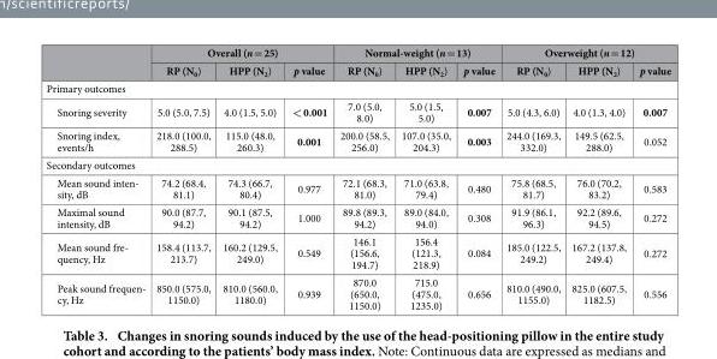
<table><thead><tr><td rowspan="2"></td><td colspan="3">Overall (n = 25)</td><td colspan="3">Normal-weight (n = 13)</td><td colspan="3">Overweight (n = 12)</td></tr><tr><td>RP (N<sub>0</sub>)</td><td>HPP (N<sub>2</sub>)</td><td>p value</td><td>RP (N<sub>0</sub>)</td><td>HPP (N<sub>2</sub>)</td><td>p value</td><td>RP (N<sub>0</sub>)</td><td>HPP (N<sub>2</sub>)</td><td>p value</td></tr></thead><tbody><tr><td colspan="10">Primary outcomes</td></tr><tr><td>Snoring severity</td><td>5.0 (5.0, 7.5)</td><td>4.0 (1.5, 5.0)</td><td>&lt; 0.001</td><td>7.0 (5.0, 8.0)</td><td>5.0 (1.5, 5.0)</td><td>0.007</td><td>5.0 (4.3, 6.0)</td><td>4.0 (1.3, 4.0)</td><td>0.007</td></tr><tr><td>Snoring index, events/h</td><td>218.0 (100.0, 288.5)</td><td>115.0 (48.0, 260.3)</td><td>0.001</td><td>200.0 (58.5, 256.0)</td><td>107.0 (35.0, 204.3)</td><td>0.003</td><td>244.0 (169.3, 332.0)</td><td>149.5 (62.5, 288.0)</td><td>0.052</td></tr><tr><td colspan="10">Secondary outcomes</td></tr><tr><td>Mean sound inten- sity, dB</td><td>74.2 (68.4, 81.1)</td><td>74.3 (66.7, 80.4)</td><td>0.977</td><td>72.1 (68.3, 81.0)</td><td>71.0 (63.8, 79.4)</td><td>0.480</td><td>75.8 (68.5, 81.7)</td><td>76.0 (70.2, 83.2)</td><td>0.583</td></tr><tr><td>Maximal sound intensity, dB</td><td>90.0 (87.7, 94.2)</td><td>90.1 (87.5, 94.2)</td><td>1.000</td><td>89.8 (89.3, 94.2)</td><td>89.0 (84.0, 94.0)</td><td>0.308</td><td>91.9 (86.1, 96.3)</td><td>92.2 (89.6, 94.5)</td><td>0.272</td></tr><tr><td>Mean sound fre- quency, Hz</td><td>158.4 (113.7, 213.7)</td><td>160.2 (129.5, 249.0)</td><td>0.549</td><td>146.1 (156.6, 194.7)</td><td>156.4 (121.3, 218.9)</td><td>0.084</td><td>185.0 (122.5, 249.2)</td><td>167.2 (137.8, 249.4)</td><td>0.272</td></tr><tr><td>Peak sound frequen- cy, Hz</td><td>850.0 (575.0, 1150.0)</td><td>810.0 (560.0, 1180.0)</td><td>0.939</td><td>870.0 (650.0, 1150.0)</td><td>715.0 (475.0, 1235.0)</td><td>0.656</td><td>810.0 (490.0, 1155.0)</td><td>825.0 (607.5, 1182.5)</td><td>0.556</td></tr></tbody></table>